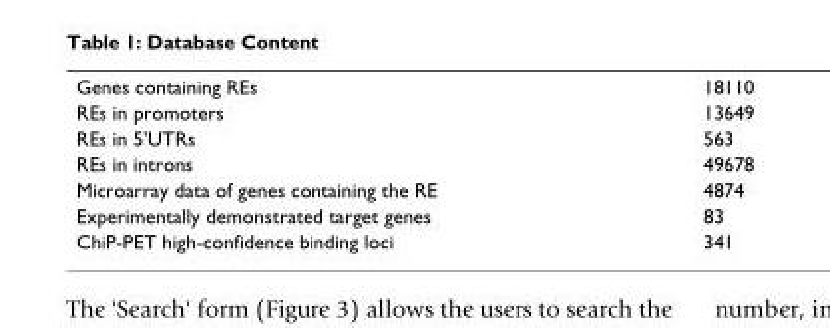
<table><tbody><tr><td>Genes containing REs</td><td>18110</td></tr><tr><td>REs in promoters</td><td>13649</td></tr><tr><td>REs in 5&#x27;UTRs</td><td>563</td></tr><tr><td>REs in introns</td><td>49678</td></tr><tr><td>Microarray data of genes containing the RE</td><td>4874</td></tr><tr><td>Experimentally demonstrated target genes</td><td>83</td></tr><tr><td>ChiP-PET high-confidence binding loci</td><td>341</td></tr></tbody></table>